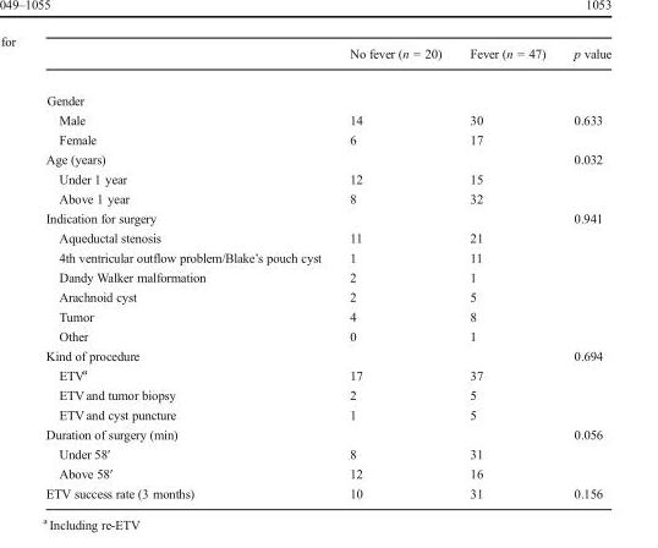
<table><thead><tr><td></td><td>No fever (n = 20)</td><td>Fever (n = 47)</td><td>p value</td></tr></thead><tbody><tr><td colspan="4">Gender</td></tr><tr><td>Male</td><td>14</td><td>30</td><td>0.633</td></tr><tr><td>Female</td><td>6</td><td>17</td><td></td></tr><tr><td>Age (years)</td><td></td><td></td><td>0.032</td></tr><tr><td>Under 1 year</td><td>12</td><td>15</td><td></td></tr><tr><td>Above 1 year</td><td>8</td><td>32</td><td></td></tr><tr><td>Indication for surgery</td><td></td><td></td><td>0.941</td></tr><tr><td>Aqueductal stenosis</td><td>11</td><td>21</td><td></td></tr><tr><td>4th ventricular outflow problem/Blake’s pouch cyst</td><td>1</td><td>11</td><td></td></tr><tr><td>Dandy Walker malformation</td><td>2</td><td>1</td><td></td></tr><tr><td>Arachnoid cyst</td><td>2</td><td>5</td><td></td></tr><tr><td>Tumor</td><td>4</td><td>8</td><td></td></tr><tr><td>Other</td><td>0</td><td>1</td><td></td></tr><tr><td>Kind of procedure</td><td></td><td></td><td>0.694</td></tr><tr><td>ETV<sup>a</sup></td><td>17</td><td>37</td><td></td></tr><tr><td>ETV and tumor biopsy</td><td>2</td><td>5</td><td></td></tr><tr><td>ETV and cyst puncture</td><td>1</td><td>5</td><td></td></tr><tr><td>Duration of surgery (min)</td><td></td><td></td><td>0.056</td></tr><tr><td>Under 58′</td><td>8</td><td>31</td><td></td></tr><tr><td>Above 58′</td><td>12</td><td>16</td><td></td></tr><tr><td>ETV success rate (3 months)</td><td>10</td><td>31</td><td>0.156</td></tr></tbody></table>